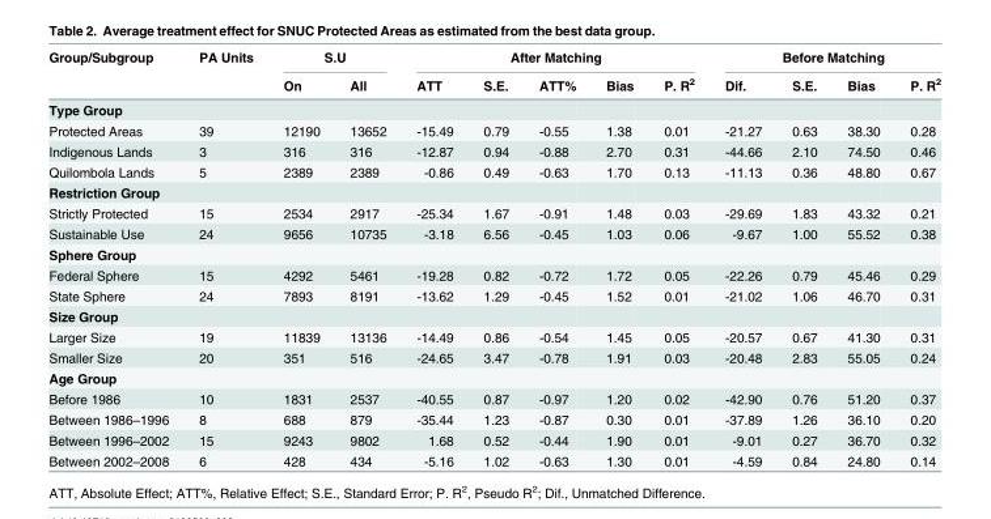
<table><thead><tr><td rowspan="2">Group/Subgroup</td><td rowspan="2">PA Units</td><td colspan="2">S.U</td><td colspan="5">After Matching</td><td colspan="4">Before Matching</td></tr><tr><td>On</td><td>All</td><td>ATT</td><td>S.E.</td><td>ATT%</td><td>Bias</td><td>P. R<sup>2</sup></td><td>Dif.</td><td>S.E.</td><td>Bias</td><td>P. R<sup>2</sup></td></tr></thead><tbody><tr><td colspan="13">Type Group</td></tr><tr><td>Protected Areas</td><td>39</td><td>12190</td><td>13652</td><td>-15.49</td><td>0.79</td><td>-0.55</td><td>1.38</td><td>0.01</td><td>-21.27</td><td>0.63</td><td>38.30</td><td>0.28</td></tr><tr><td>Indigenous Lands</td><td>3</td><td>316</td><td>316</td><td>-12.87</td><td>0.94</td><td>-0.88</td><td>2.70</td><td>0.31</td><td>-44.66</td><td>2.10</td><td>74.50</td><td>0.46</td></tr><tr><td>Quilombola Lands</td><td>5</td><td>2389</td><td>2389</td><td>-0.86</td><td>0.49</td><td>-0.63</td><td>1.70</td><td>0.13</td><td>-11.13</td><td>0.36</td><td>48.80</td><td>0.67</td></tr><tr><td colspan="13">Restriction Group</td></tr><tr><td>Strictly Protected</td><td>15</td><td>2534</td><td>2917</td><td>-25.34</td><td>1.67</td><td>-0.91</td><td>1.48</td><td>0.03</td><td>-29.69</td><td>1.83</td><td>43.32</td><td>0.21</td></tr><tr><td>Sustainable Use</td><td>24</td><td>9656</td><td>10735</td><td>-3.18</td><td>6.56</td><td>-0.45</td><td>1.03</td><td>0.06</td><td>-9.67</td><td>1.00</td><td>55.52</td><td>0.38</td></tr><tr><td colspan="13">Sphere Group</td></tr><tr><td>Federal Sphere</td><td>15</td><td>4292</td><td>5461</td><td>-19.28</td><td>0.82</td><td>-0.72</td><td>1.72</td><td>0.05</td><td>-22.26</td><td>0.79</td><td>45.46</td><td>0.29</td></tr><tr><td>State Sphere</td><td>24</td><td>7893</td><td>8191</td><td>-13.62</td><td>1.29</td><td>-0.45</td><td>1.52</td><td>0.01</td><td>-21.02</td><td>1.06</td><td>46.70</td><td>0.31</td></tr><tr><td colspan="13">Size Group</td></tr><tr><td>Larger Size</td><td>19</td><td>11839</td><td>13136</td><td>-14.49</td><td>0.86</td><td>-0.54</td><td>1.45</td><td>0.05</td><td>-20.57</td><td>0.67</td><td>41.30</td><td>0.31</td></tr><tr><td>Smaller Size</td><td>20</td><td>351</td><td>516</td><td>-24.65</td><td>3.47</td><td>-0.78</td><td>1.91</td><td>0.03</td><td>-20.48</td><td>2.83</td><td>55.05</td><td>0.24</td></tr><tr><td colspan="13">Age Group</td></tr><tr><td>Before 1986</td><td>10</td><td>1831</td><td>2537</td><td>-40.55</td><td>0.87</td><td>-0.97</td><td>1.20</td><td>0.02</td><td>-42.90</td><td>0.76</td><td>51.20</td><td>0.37</td></tr><tr><td>Between 1986–1996</td><td>8</td><td>688</td><td>879</td><td>-35.44</td><td>1.23</td><td>-0.87</td><td>0.30</td><td>0.01</td><td>-37.89</td><td>1.26</td><td>36.10</td><td>0.20</td></tr><tr><td>Between 1996–2002</td><td>15</td><td>9243</td><td>9802</td><td>1.68</td><td>0.52</td><td>-0.44</td><td>1.90</td><td>0.01</td><td>-9.01</td><td>0.27</td><td>36.70</td><td>0.32</td></tr><tr><td>Between 2002–2008</td><td>6</td><td>428</td><td>434</td><td>-5.16</td><td>1.02</td><td>-0.63</td><td>1.30</td><td>0.01</td><td>-4.59</td><td>0.84</td><td>24.80</td><td>0.14</td></tr></tbody></table>